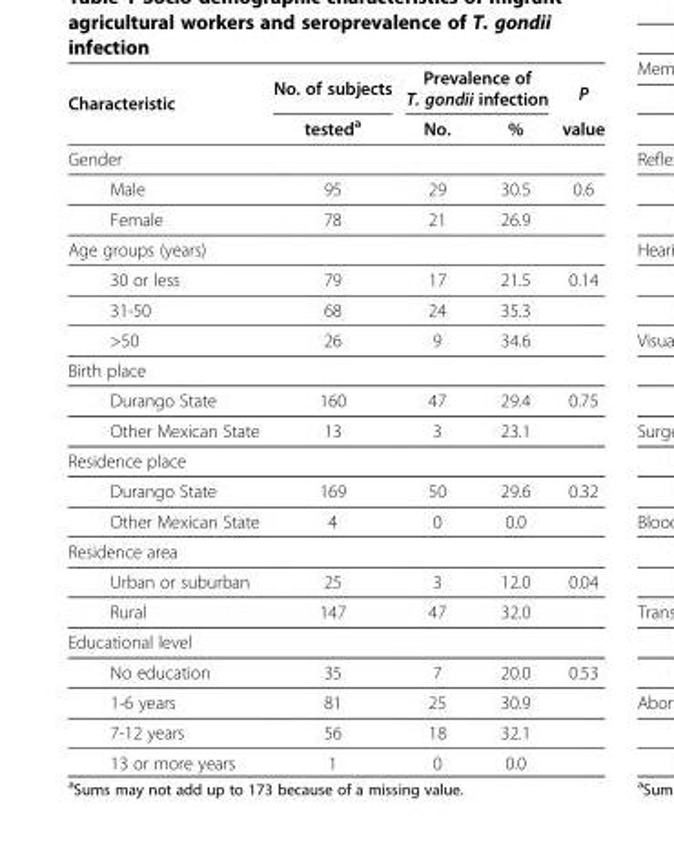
<table><thead><tr><td rowspan="2">Characteristic</td><td rowspan="2">No. of subjects tested<sup>a</sup></td><td colspan="2">Prevalence of T. gondii infection</td><td rowspan="2">P value</td></tr><tr><td>No.</td><td>%</td></tr></thead><tbody><tr><td colspan="5">Gender</td></tr><tr><td>Male</td><td>95</td><td>29</td><td>30.5</td><td>0.6</td></tr><tr><td>Female</td><td>78</td><td>21</td><td>26.9</td><td></td></tr><tr><td colspan="5">Age groups (years)</td></tr><tr><td>30 or less</td><td>79</td><td>17</td><td>21.5</td><td>0.14</td></tr><tr><td>31-50</td><td>68</td><td>24</td><td>35.3</td><td></td></tr><tr><td>&gt;50</td><td>26</td><td>9</td><td>34.6</td><td></td></tr><tr><td colspan="5">Birth place</td></tr><tr><td>Durango State</td><td>160</td><td>47</td><td>29.4</td><td>0.75</td></tr><tr><td>Other Mexican State</td><td>13</td><td>3</td><td>23.1</td><td></td></tr><tr><td colspan="5">Residence place</td></tr><tr><td>Durango State</td><td>169</td><td>50</td><td>29.6</td><td>0.32</td></tr><tr><td>Other Mexican State</td><td>4</td><td>0</td><td>0.0</td><td></td></tr><tr><td colspan="5">Residence area</td></tr><tr><td>Urban or suburban</td><td>25</td><td>3</td><td>12.0</td><td>0.04</td></tr><tr><td>Rural</td><td>147</td><td>47</td><td>32.0</td><td></td></tr><tr><td colspan="5">Educational level</td></tr><tr><td>No education</td><td>35</td><td>7</td><td>20.0</td><td>0.53</td></tr><tr><td>1-6 years</td><td>81</td><td>25</td><td>30.9</td><td></td></tr><tr><td>7-12 years</td><td>56</td><td>18</td><td>32.1</td><td></td></tr><tr><td>13 or more years</td><td>1</td><td>0</td><td>0.0</td><td></td></tr></tbody></table>